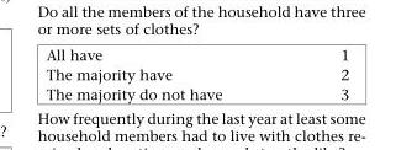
<table><tbody><tr><td>All have</td><td>1</td></tr><tr><td>The majority have</td><td>2</td></tr><tr><td>The majority do not have</td><td>3</td></tr></tbody></table>